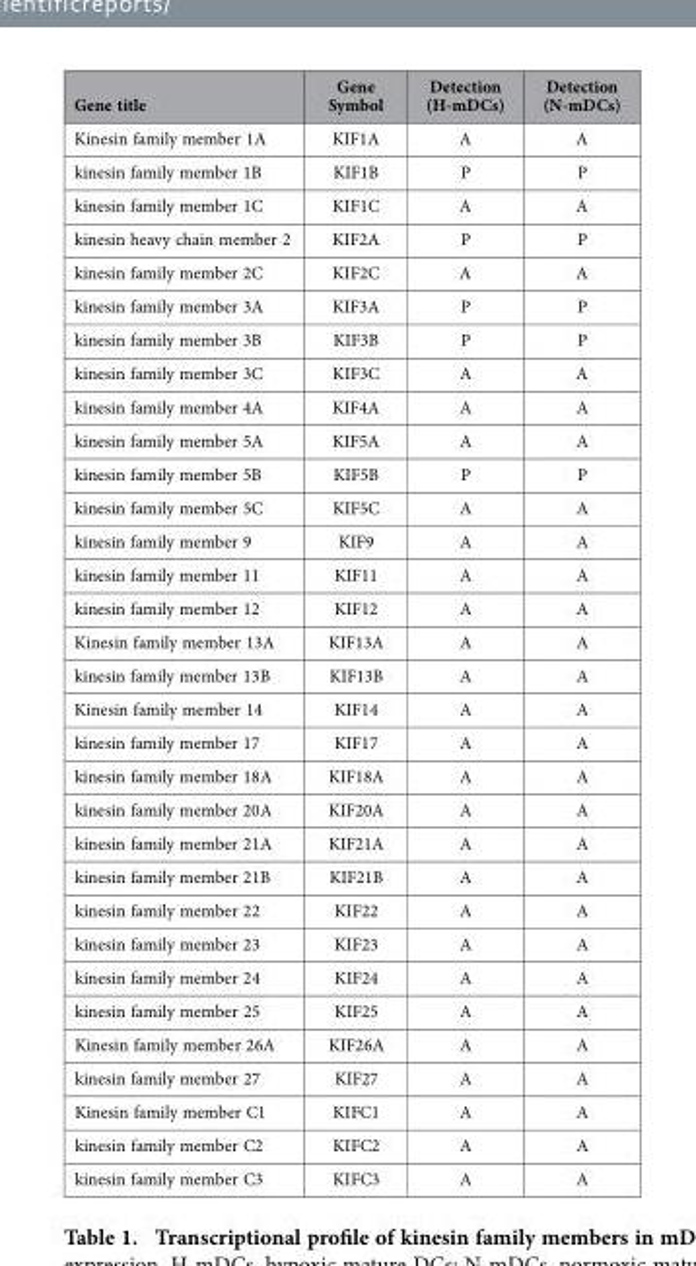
<table><thead><tr><td>Gene title</td><td>Gene Symbol</td><td>Detection (H-mDCs)</td><td>Detection (N-mDCs)</td></tr></thead><tbody><tr><td>Kinesin family member 1A</td><td>KIF1A</td><td>A</td><td>A</td></tr><tr><td>kinesin family member 1B</td><td>KIF1B</td><td>P</td><td>P</td></tr><tr><td>kinesin family member 1C</td><td>KIF1C</td><td>A</td><td>A</td></tr><tr><td>kinesin heavy chain member 2</td><td>KIF2A</td><td>P</td><td>P</td></tr><tr><td>kinesin family member 2C</td><td>KIF2C</td><td>A</td><td>A</td></tr><tr><td>kinesin family member 3A</td><td>KIF3A</td><td>P</td><td>P</td></tr><tr><td>kinesin family member 3B</td><td>KIF3B</td><td>P</td><td>P</td></tr><tr><td>kinesin family member 3C</td><td>KIF3C</td><td>A</td><td>A</td></tr><tr><td>kinesin family member 4A</td><td>KIF4A</td><td>A</td><td>A</td></tr><tr><td>kinesin family member 5A</td><td>KIF5A</td><td>A</td><td>A</td></tr><tr><td>kinesin family member 5B</td><td>KIF5B</td><td>P</td><td>P</td></tr><tr><td>kinesin family member 5C</td><td>KIF5C</td><td>A</td><td>A</td></tr><tr><td>kinesin family member 9</td><td>KIF9</td><td>A</td><td>A</td></tr><tr><td>kinesin family member 11</td><td>KIF11</td><td>A</td><td>A</td></tr><tr><td>kinesin family member 12</td><td>KIF12</td><td>A</td><td>A</td></tr><tr><td>Kinesin family member 13A</td><td>KIF13A</td><td>A</td><td>A</td></tr><tr><td>kinesin family member 13B</td><td>KIF13B</td><td>A</td><td>A</td></tr><tr><td>Kinesin family member 14</td><td>KIF14</td><td>A</td><td>A</td></tr><tr><td>kinesin family member 17</td><td>KIF17</td><td>A</td><td>A</td></tr><tr><td>kinesin family member 18A</td><td>KIF18A</td><td>A</td><td>A</td></tr><tr><td>kinesin family member 20A</td><td>KIF20A</td><td>A</td><td>A</td></tr><tr><td>kinesin family member 21A</td><td>KIF21A</td><td>A</td><td>A</td></tr><tr><td>kinesin family member 21B</td><td>KIF21B</td><td>A</td><td>A</td></tr><tr><td>kinesin family member 22</td><td>KIF22</td><td>A</td><td>A</td></tr><tr><td>kinesin family member 23</td><td>KIF23</td><td>A</td><td>A</td></tr><tr><td>kinesin family member 24</td><td>KIF24</td><td>A</td><td>A</td></tr><tr><td>kinesin family member 25</td><td>KIF25</td><td>A</td><td>A</td></tr><tr><td>Kinesin family member 26A</td><td>KIF26A</td><td>A</td><td>A</td></tr><tr><td>kinesin family member 27</td><td>KIF27</td><td>A</td><td>A</td></tr><tr><td>Kinesin family member C1</td><td>KIFC1</td><td>A</td><td>A</td></tr><tr><td>kinesin family member C2</td><td>KIFC2</td><td>A</td><td>A</td></tr><tr><td>kinesin family member C3</td><td>KIFC3</td><td>A</td><td>A</td></tr></tbody></table>